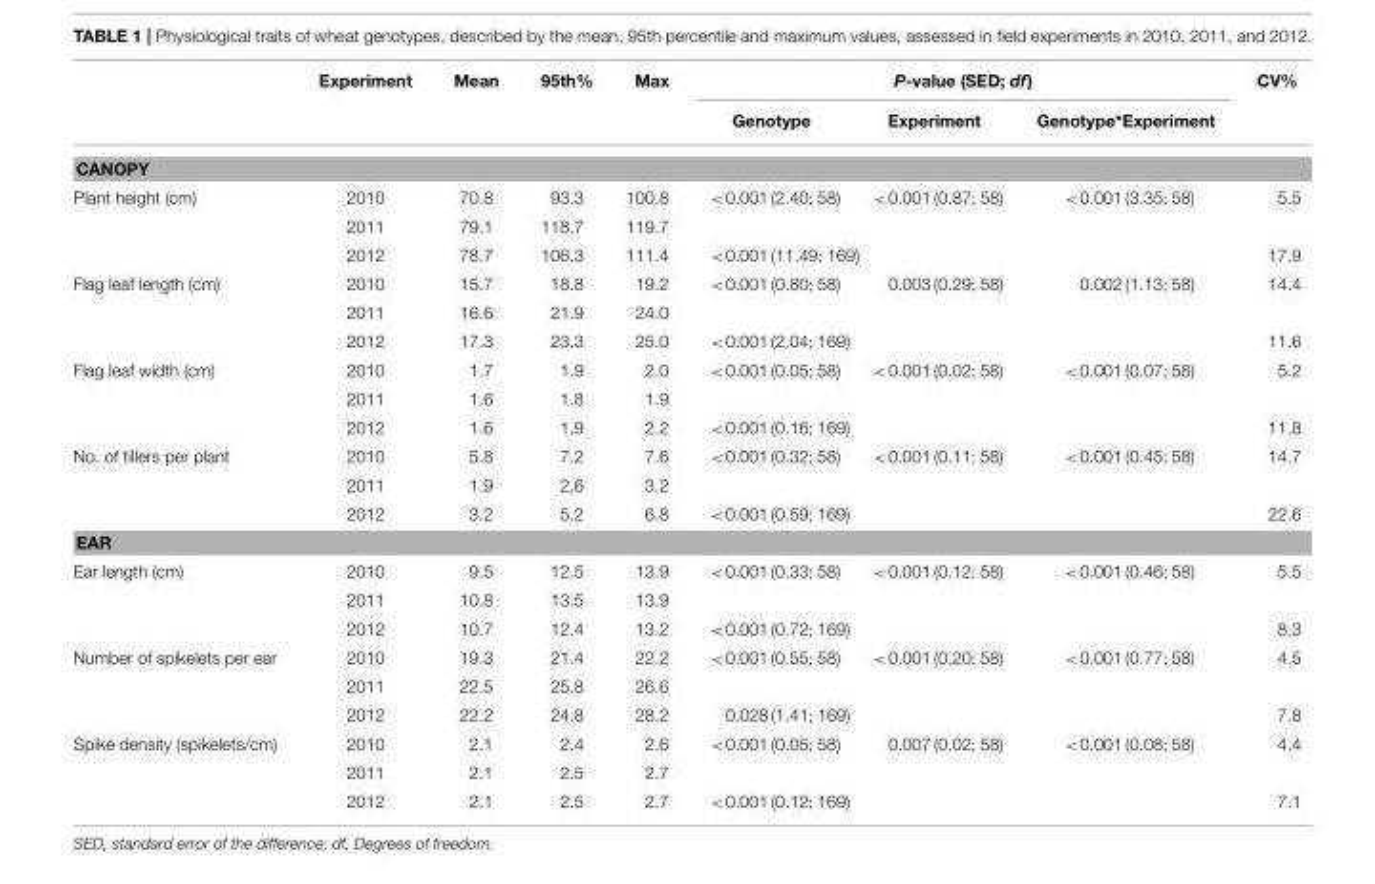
<table><thead><tr><td rowspan="2"></td><td rowspan="2">Experiment</td><td rowspan="2">Mean</td><td rowspan="2">95th%</td><td rowspan="2">Max</td><td colspan="3">P-value (SED; df)</td><td rowspan="2">CV%</td></tr><tr><td>Genotype</td><td>Experiment</td><td>Genotype*Experiment</td></tr></thead><tbody><tr><td colspan="9">CANOPY</td></tr><tr><td rowspan="3">Plant height (cm)</td><td>2010</td><td>70.8</td><td>93.3</td><td>100.8</td><td>&lt;0.001 (2.40; 58)</td><td>&lt;0.001 (0.87; 58)</td><td>&lt;0.001 (3.35; 58)</td><td>5.5</td></tr><tr><td>2011</td><td>79.1</td><td>118.7</td><td>119.7</td><td></td><td></td><td></td><td></td></tr><tr><td>2012</td><td>78.7</td><td>106.3</td><td>111.4</td><td>&lt;0.001 (11.49; 169)</td><td></td><td></td><td>17.9</td></tr><tr><td rowspan="3">Flag leaf length (cm)</td><td>2010</td><td>15.7</td><td>18.8</td><td>19.2</td><td>&lt;0.001 (0.80; 58)</td><td>0.003 (0.29; 58)</td><td>0.002 (1.13; 58)</td><td>14.4</td></tr><tr><td>2011</td><td>16.6</td><td>21.9</td><td>24.0</td><td></td><td></td><td></td><td></td></tr><tr><td>2012</td><td>17.3</td><td>23.3</td><td>25.0</td><td>&lt;0.001 (2.04; 169)</td><td></td><td></td><td>11.6</td></tr><tr><td rowspan="3">Flag leaf width (cm)</td><td>2010</td><td>1.7</td><td>1.9</td><td>2.0</td><td>&lt;0.001 (0.05; 58)</td><td>&lt;0.001 (0.02; 58)</td><td>&lt;0.001 (0.07; 58)</td><td>5.2</td></tr><tr><td>2011</td><td>1.6</td><td>1.8</td><td>1.9</td><td></td><td></td><td></td><td></td></tr><tr><td>2012</td><td>1.6</td><td>1.9</td><td>2.2</td><td>&lt;0.001 (0.16; 169)</td><td></td><td></td><td>11.8</td></tr><tr><td rowspan="3">No. of tillers per plant</td><td>2010</td><td>5.8</td><td>7.2</td><td>7.6</td><td>&lt;0.001 (0.32; 58)</td><td>&lt;0.001 (0.11; 58)</td><td>&lt;0.001 (0.45; 58)</td><td>14.7</td></tr><tr><td>2011</td><td>1.9</td><td>2.6</td><td>3.2</td><td></td><td></td><td></td><td></td></tr><tr><td>2012</td><td>3.2</td><td>5.2</td><td>6.8</td><td>&lt;0.001 (0.59; 169)</td><td></td><td></td><td>22.6</td></tr><tr><td colspan="9">EAR</td></tr><tr><td rowspan="3">Ear length (cm)</td><td>2010</td><td>9.5</td><td>12.5</td><td>13.9</td><td>&lt;0.001 (0.33; 58)</td><td>&lt;0.001 (0.12; 58)</td><td>&lt;0.001 (0.46; 58)</td><td>5.5</td></tr><tr><td>2011</td><td>10.8</td><td>13.5</td><td>13.9</td><td></td><td></td><td></td><td></td></tr><tr><td>2012</td><td>10.7</td><td>12.4</td><td>13.2</td><td>&lt;0.001 (0.72; 169)</td><td></td><td></td><td>8.3</td></tr><tr><td rowspan="3">Number of spikelets per ear</td><td>2010</td><td>19.3</td><td>21.4</td><td>22.2</td><td>&lt;0.001 (0.55; 58)</td><td>&lt;0.001 (0.20; 58)</td><td>&lt;0.001 (0.77; 58)</td><td>4.5</td></tr><tr><td>2011</td><td>22.5</td><td>25.8</td><td>26.6</td><td></td><td></td><td></td><td></td></tr><tr><td>2012</td><td>22.2</td><td>24.8</td><td>28.2</td><td>0.028 (1.41; 169)</td><td></td><td></td><td>7.8</td></tr><tr><td rowspan="3">Spike density (spikelets/cm)</td><td>2010</td><td>2.1</td><td>2.4</td><td>2.6</td><td>&lt;0.001 (0.05; 58)</td><td>0.007 (0.02; 58)</td><td>&lt;0.001 (0.08; 58)</td><td>4.4</td></tr><tr><td>2011</td><td>2.1</td><td>2.5</td><td>2.7</td><td></td><td></td><td></td><td></td></tr><tr><td>2012</td><td>2.1</td><td>2.5</td><td>2.7</td><td>&lt;0.001 (0.12; 169)</td><td></td><td></td><td>7.1</td></tr></tbody></table>